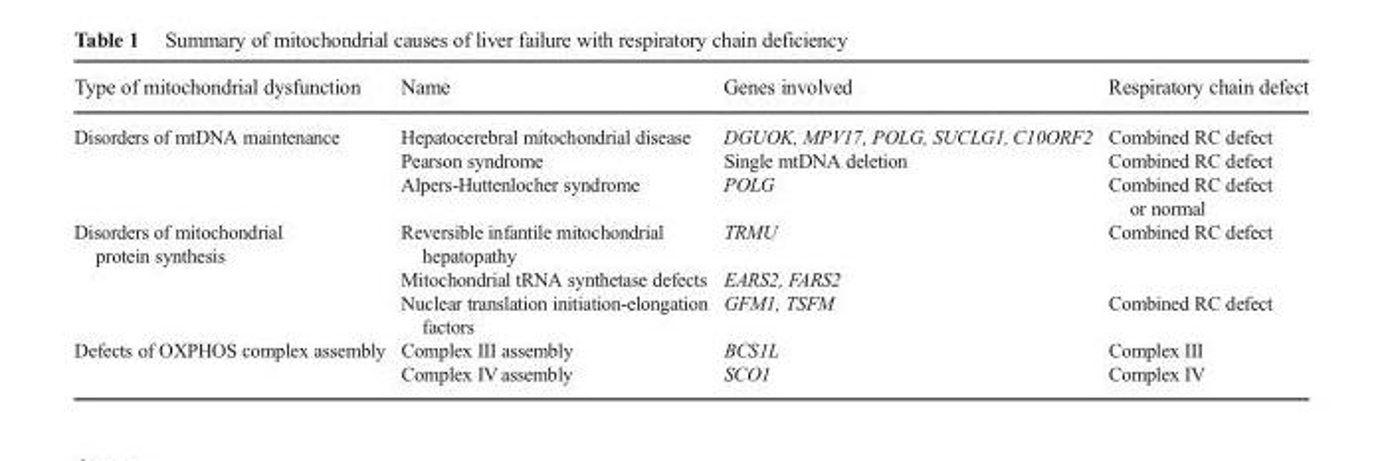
<table><thead><tr><td>Type of mitochondrial dysfunction</td><td>Name</td><td>Genes involved</td><td>Respiratory chain defect</td></tr></thead><tbody><tr><td rowspan="3">Disorders of mtDNA maintenance</td><td>Hepatocerebral mitochondrial disease</td><td>DGUOK, MPV17, POLG, SUCLG1, C10ORF2</td><td>Combined RC defect</td></tr><tr><td>Pearson syndrome</td><td>Single mtDNA deletion</td><td>Combined RC defect</td></tr><tr><td>Alpers-Huttenlocher syndrome</td><td>POLG</td><td>Combined RC defect or normal</td></tr><tr><td rowspan="3">Disorders of mitochondrial protein synthesis</td><td>Reversible infantile mitochondrial hepatopathy</td><td>TRMU</td><td>Combined RC defect</td></tr><tr><td>Mitochondrial tRNA synthetase defects</td><td>EARS2, FARS2</td><td></td></tr><tr><td>Nuclear translation initiation-elongation factors</td><td>GFM1, TSFM</td><td>Combined RC defect</td></tr><tr><td rowspan="2">Defects of OXPHOS complex assembly</td><td>Complex III assembly</td><td>BCS1L</td><td>Complex III</td></tr><tr><td>Complex IVassembly</td><td>SCO1</td><td>Complex IV</td></tr></tbody></table>